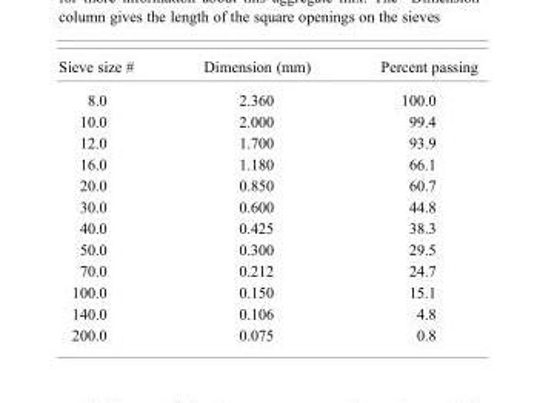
<table><thead><tr><td>Sieve size #</td><td>Dimension (mm)</td><td>Percent passing</td></tr></thead><tbody><tr><td>8.0</td><td>2.360</td><td>100.0</td></tr><tr><td>10.0</td><td>2.000</td><td>99.4</td></tr><tr><td>12.0</td><td>1.700</td><td>93.9</td></tr><tr><td>16.0</td><td>1.180</td><td>66.1</td></tr><tr><td>20.0</td><td>0.850</td><td>60.7</td></tr><tr><td>30.0</td><td>0.600</td><td>44.8</td></tr><tr><td>40.0</td><td>0.425</td><td>38.3</td></tr><tr><td>50.0</td><td>0.300</td><td>29.5</td></tr><tr><td>70.0</td><td>0.212</td><td>24.7</td></tr><tr><td>100.0</td><td>0.150</td><td>15.1</td></tr><tr><td>140.0</td><td>0.106</td><td>4.8</td></tr><tr><td>200.0</td><td>0.075</td><td>0.8</td></tr></tbody></table>